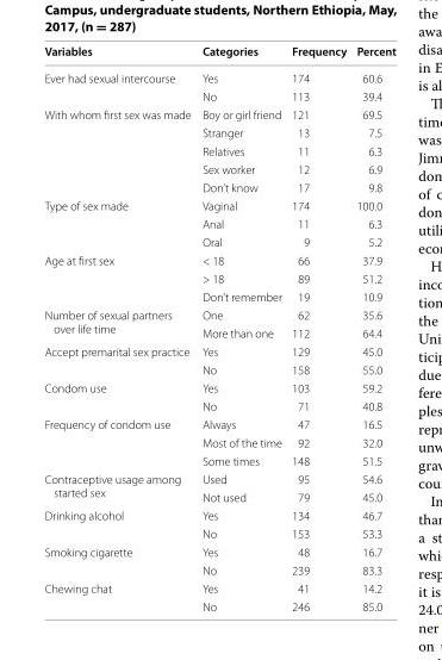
<table><thead><tr><td>Variables</td><td>Categories</td><td>Frequency</td><td>Percent</td></tr></thead><tbody><tr><td rowspan="2">Ever had sexual intercourse</td><td>Yes</td><td>174</td><td>60.6</td></tr><tr><td>No</td><td>113</td><td>39.4</td></tr><tr><td rowspan="5">With whom first sex was made</td><td>Boy or girl friend</td><td>121</td><td>69.5</td></tr><tr><td>Stranger</td><td>13</td><td>7.5</td></tr><tr><td>Relatives</td><td>11</td><td>6.3</td></tr><tr><td>Sex worker</td><td>12</td><td>6.9</td></tr><tr><td>Don’t know</td><td>17</td><td>9.8</td></tr><tr><td rowspan="3">Type of sex made</td><td>Vaginal</td><td>174</td><td>100.0</td></tr><tr><td>Anal</td><td>11</td><td>6.3</td></tr><tr><td>Oral</td><td>9</td><td>5.2</td></tr><tr><td rowspan="3">Age at first sex</td><td>&lt; 18</td><td>66</td><td>37.9</td></tr><tr><td>&gt; 18</td><td>89</td><td>51.2</td></tr><tr><td>Don’t remember</td><td>19</td><td>10.9</td></tr><tr><td rowspan="2">Number of sexual partners over life time</td><td>One</td><td>62</td><td>35.6</td></tr><tr><td>More than one</td><td>112</td><td>64.4</td></tr><tr><td rowspan="2">Accept premarital sex practice</td><td>Yes</td><td>129</td><td>45.0</td></tr><tr><td>No</td><td>158</td><td>55.0</td></tr><tr><td rowspan="2">Condom use</td><td>Yes</td><td>103</td><td>59.2</td></tr><tr><td>No</td><td>71</td><td>40.8</td></tr><tr><td rowspan="3">Frequency of condom use</td><td>Always</td><td>47</td><td>16.5</td></tr><tr><td>Most of the time</td><td>92</td><td>32.0</td></tr><tr><td>Some times</td><td>148</td><td>51.5</td></tr><tr><td rowspan="2">Contraceptive usage among started sex</td><td>Used</td><td>95</td><td>54.6</td></tr><tr><td>Not used</td><td>79</td><td>45.0</td></tr><tr><td rowspan="2">Drinking alcohol</td><td>Yes</td><td>134</td><td>46.7</td></tr><tr><td>No</td><td>153</td><td>53.3</td></tr><tr><td rowspan="2">Smoking cigarette</td><td>Yes</td><td>48</td><td>16.7</td></tr><tr><td>No</td><td>239</td><td>83.3</td></tr><tr><td rowspan="2">Chewing chat</td><td>Yes</td><td>41</td><td>14.2</td></tr><tr><td>No</td><td>246</td><td>85.0</td></tr></tbody></table>